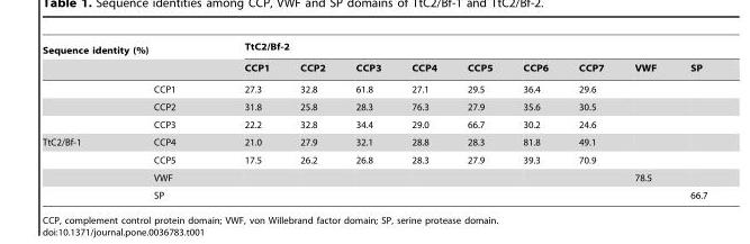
<table><thead><tr><td colspan="2">Sequence identity (%)</td><td colspan="9">TtC2/Bf-2</td></tr><tr><td></td><td></td><td>CCP1</td><td>CCP2</td><td>CCP3</td><td>CCP4</td><td>CCP5</td><td>CCP6</td><td>CCP7</td><td>VWF</td><td>SP</td></tr></thead><tbody><tr><td></td><td>CCP1</td><td>27.3</td><td>32.8</td><td>61.8</td><td>27.1</td><td>29.5</td><td>36.4</td><td>29.6</td><td></td><td></td></tr><tr><td></td><td>CCP2</td><td>31.8</td><td>25.8</td><td>28.3</td><td>76.3</td><td>27.9</td><td>35.6</td><td>30.5</td><td></td><td></td></tr><tr><td></td><td>CCP3</td><td>22.2</td><td>32.8</td><td>34.4</td><td>29.0</td><td>66.7</td><td>30.2</td><td>24.6</td><td></td><td></td></tr><tr><td rowspan="4">TtC2/Bf-1</td><td>CCP4</td><td>21.0</td><td>27.9</td><td>32.1</td><td>28.8</td><td>28.3</td><td>81.8</td><td>49.1</td><td></td><td></td></tr><tr><td>CCP5</td><td>17.5</td><td>26.2</td><td>26.8</td><td>28.3</td><td>27.9</td><td>39.3</td><td>70.9</td><td></td><td></td></tr><tr><td>VWF</td><td></td><td></td><td></td><td></td><td></td><td></td><td></td><td>78.5</td><td></td></tr><tr><td>SP</td><td></td><td></td><td></td><td></td><td></td><td></td><td></td><td></td><td>66.7</td></tr></tbody></table>